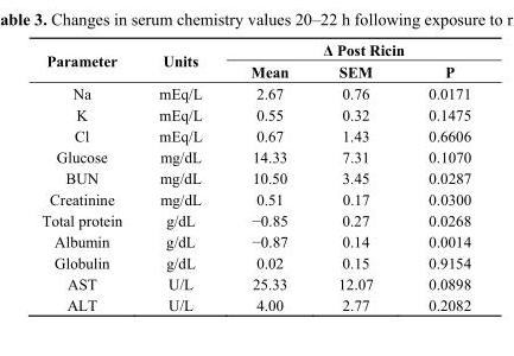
<table><thead><tr><td rowspan="2">Parameter</td><td rowspan="2">Units</td><td colspan="3">Δ Post Ricin</td></tr><tr><td>Mean</td><td>SEM</td><td>P</td></tr></thead><tbody><tr><td>Na</td><td>mEq/L</td><td>2.67</td><td>0.76</td><td>0.0171</td></tr><tr><td>K</td><td>mEq/L</td><td>0.55</td><td>0.32</td><td>0.1475</td></tr><tr><td>Cl</td><td>mEq/L</td><td>0.67</td><td>1.43</td><td>0.6606</td></tr><tr><td>Glucose</td><td>mg/dL</td><td>14.33</td><td>7.31</td><td>0.1070</td></tr><tr><td>BUN</td><td>mg/dL</td><td>10.50</td><td>3.45</td><td>0.0287</td></tr><tr><td>Creatinine</td><td>mg/dL</td><td>0.51</td><td>0.17</td><td>0.0300</td></tr><tr><td>Total protein</td><td>g/dL</td><td>−0.85</td><td>0.27</td><td>0.0268</td></tr><tr><td>Albumin</td><td>g/dL</td><td>−0.87</td><td>0.14</td><td>0.0014</td></tr><tr><td>Globulin</td><td>g/dL</td><td>0.02</td><td>0.15</td><td>0.9154</td></tr><tr><td>AST</td><td>U/L</td><td>25.33</td><td>12.07</td><td>0.0898</td></tr><tr><td>ALT</td><td>U/L</td><td>4.00</td><td>2.77</td><td>0.2082</td></tr></tbody></table>